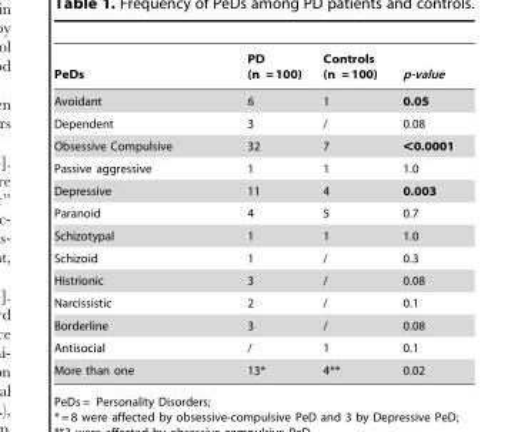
<table><thead><tr><td>PeDs</td><td>PD (n = 100)</td><td>Controls (n = 100)</td><td>p-value</td></tr></thead><tbody><tr><td>Avoidant</td><td>6</td><td>1</td><td>0.05</td></tr><tr><td>Dependent</td><td>3</td><td>/</td><td>0.08</td></tr><tr><td>Obsessive Compulsive</td><td>32</td><td>7</td><td>&lt;0.0001</td></tr><tr><td>Passive aggressive</td><td>1</td><td>1</td><td>1.0</td></tr><tr><td>Depressive</td><td>11</td><td>4</td><td>0.003</td></tr><tr><td>Paranoid</td><td>4</td><td>5</td><td>0.7</td></tr><tr><td>Schizotypal</td><td>1</td><td>1</td><td>1.0</td></tr><tr><td>Schizoid</td><td>1</td><td>/</td><td>0.3</td></tr><tr><td>Histrionic</td><td>3</td><td>/</td><td>0.08</td></tr><tr><td>Narcissistic</td><td>2</td><td>/</td><td>0.1</td></tr><tr><td>Borderline</td><td>3</td><td>/</td><td>0.08</td></tr><tr><td>Antisocial</td><td>/</td><td>1</td><td>0.1</td></tr><tr><td>More than one</td><td>13*</td><td>4**</td><td>0.02</td></tr></tbody></table>